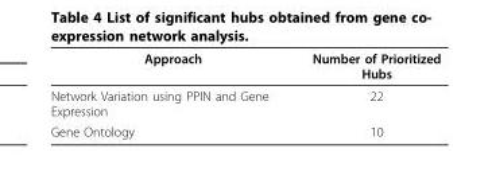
<table><thead><tr><td>Approach</td><td>Number of Prioritized Hubs</td></tr></thead><tbody><tr><td>Network Variation using PPIN and Gene Expression</td><td>22</td></tr><tr><td>Gene Ontology</td><td>10</td></tr></tbody></table>